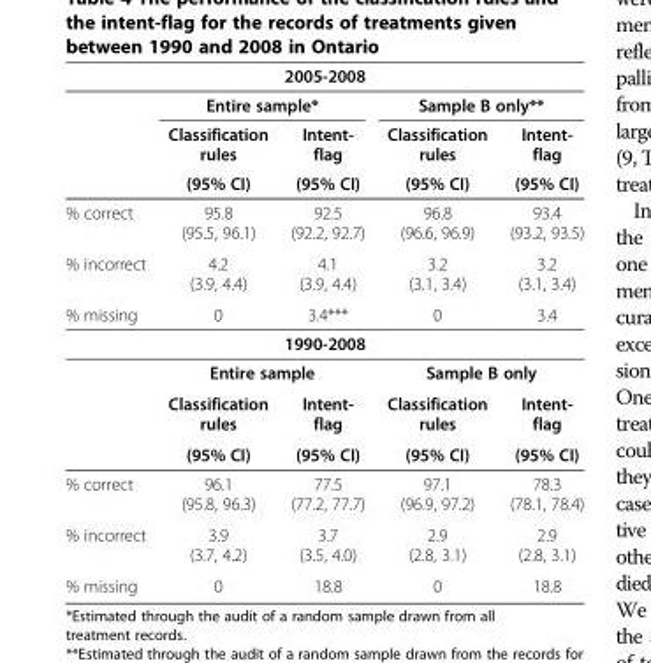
<table><thead><tr><td colspan="5">2005-2008</td></tr><tr><td rowspan="3"></td><td colspan="2">Entire sample*</td><td colspan="2">Sample B only**</td></tr><tr><td rowspan="2">Classification rules (95% CI)</td><td rowspan="2">Intent- flag (95% CI)</td><td rowspan="2">Classification rules (95% CI)</td><td rowspan="2">Intent- flag (95% CI)</td></tr><tr></tr></thead><tbody><tr><td>% correct</td><td>95.8 (95.5, 96.1)</td><td>92.5 (92.2, 92.7)</td><td>96.8 (96.6, 96.9)</td><td>93.4 (93.2, 93.5)</td></tr><tr><td>% incorrect</td><td>4.2 (3.9, 4.4)</td><td>4.1 (3.9, 4.4)</td><td>3.2 (3.1, 3.4)</td><td>3.2 (3.1, 3.4)</td></tr><tr><td>% missing</td><td>0</td><td>3.4***</td><td>0</td><td>3.4</td></tr><tr><td colspan="5">1990-2008</td></tr><tr><td></td><td colspan="2">Entire sample</td><td colspan="2">Sample B only</td></tr><tr><td rowspan="2"></td><td>Classification rules</td><td>Intent- flag</td><td>Classification rules</td><td>Intent- flag</td></tr><tr><td>(95% CI)</td><td>(95% CI)</td><td>(95% CI)</td><td>(95% CI)</td></tr><tr><td>% correct</td><td>96.1 (95.8, 96.3)</td><td>77.5 (77.2, 77.7)</td><td>97.1 (96.9, 97.2)</td><td>78.3 (78.1, 78.4)</td></tr><tr><td>% incorrect</td><td>3.9 (3.7, 4.2)</td><td>3.7 (3.5, 4.0)</td><td>2.9 (2.8, 3.1)</td><td>2.9 (2.8, 3.1)</td></tr><tr><td>% missing</td><td>0</td><td>18.8</td><td>0</td><td>18.8</td></tr></tbody></table>